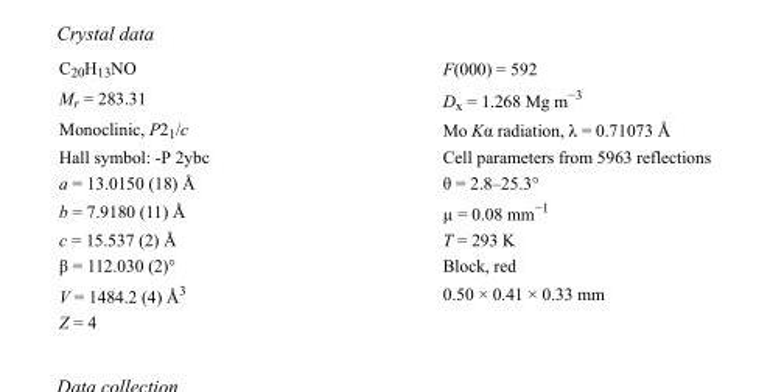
<table><tbody><tr><td>C<sub>20</sub>H<sub>13</sub>NO</td><td>F(000) = 592</td></tr><tr><td>M<sub>r</sub> = 283.31</td><td>D<sub>x</sub> = 1.268 Mg m<sup>−3</sup></td></tr><tr><td>Monoclinic, P2<sub>1</sub>/c</td><td>Mo Kα radiation, λ = 0.71073 Å</td></tr><tr><td>Hall symbol: -P 2ybc</td><td>Cell parameters from 5963 reflections</td></tr><tr><td>a = 13.0150 (18) Å</td><td>θ = 2.8–25.3°</td></tr><tr><td>b = 7.9180 (11) Å</td><td>µ = 0.08 mm<sup>−1</sup></td></tr><tr><td>c = 15.537 (2) Å</td><td>T = 293 K</td></tr><tr><td>β = 112.030 (2)°</td><td>Block, red</td></tr><tr><td>V = 1484.2 (4) Å<sup>3</sup></td><td>0.50 × 0.41 × 0.33 mm</td></tr><tr><td>Z = 4</td><td></td></tr></tbody></table>